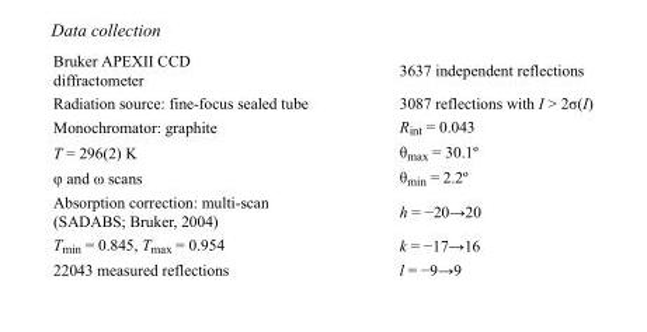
<table><tbody><tr><td>Bruker APEXII CCD diffractometer</td><td>3637 independent reflections</td></tr><tr><td>Radiation source: fine-focus sealed tube</td><td>3087 reflections with I &gt; 2σ(I)</td></tr><tr><td>Monochromator: graphite</td><td>R<sub>int</sub> = 0.043</td></tr><tr><td>T = 296(2) K</td><td>θ<sub>max</sub> = 30.1º</td></tr><tr><td>φ and ω scans</td><td>θ<sub>min</sub> = 2.2º</td></tr><tr><td>Absorption correction: multi-scan (SADABS; Bruker, 2004)</td><td>h = −20→20</td></tr><tr><td>T<sub>min</sub> = 0.845, T<sub>max</sub> = 0.954</td><td>k = −17→16</td></tr><tr><td>22043 measured reflections</td><td>l = −9→9</td></tr></tbody></table>